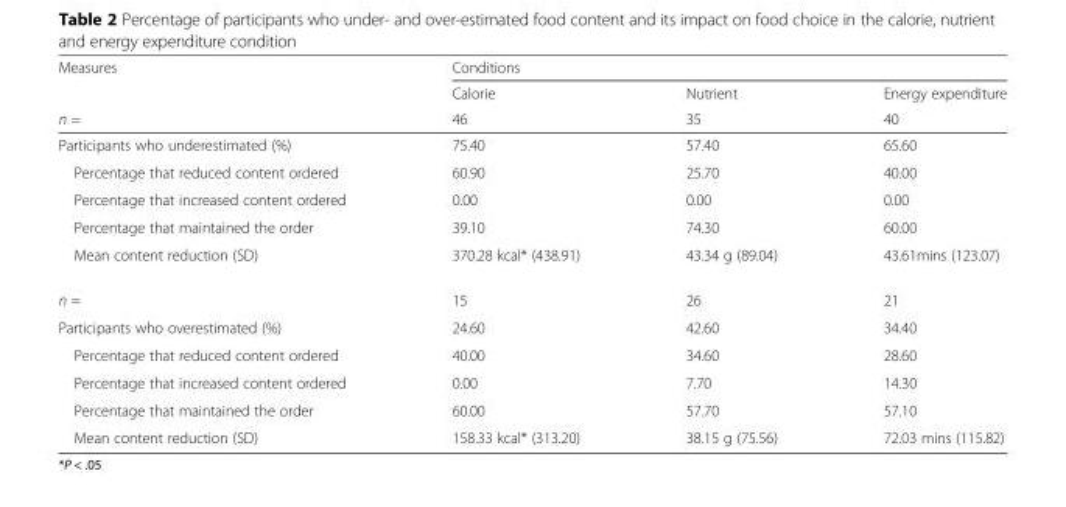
<table><thead><tr><td rowspan="3">Measures n =</td><td colspan="3">Conditions</td></tr><tr><td rowspan="2">Calorie 46</td><td rowspan="2">Nutrient 35</td><td rowspan="2">Energy expenditure 40</td></tr><tr></tr></thead><tbody><tr><td>Participants who underestimated (%)</td><td>75.40</td><td>57.40</td><td>65.60</td></tr><tr><td>Percentage that reduced content ordered</td><td>60.90</td><td>25.70</td><td>40.00</td></tr><tr><td>Percentage that increased content ordered</td><td>0.00</td><td>0.00</td><td>0.00</td></tr><tr><td>Percentage that maintained the order</td><td>39.10</td><td>74.30</td><td>60.00</td></tr><tr><td>Mean content reduction (SD)</td><td>370.28 kcal* (438.91)</td><td>43.34 g (89.04)</td><td>43.61mins (123.07)</td></tr><tr><td>n =</td><td>15</td><td>26</td><td>21</td></tr><tr><td>Participants who overestimated (%)</td><td>24.60</td><td>42.60</td><td>34.40</td></tr><tr><td>Percentage that reduced content ordered</td><td>40.00</td><td>34.60</td><td>28.60</td></tr><tr><td>Percentage that increased content ordered</td><td>0.00</td><td>7.70</td><td>14.30</td></tr><tr><td>Percentage that maintained the order</td><td>60.00</td><td>57.70</td><td>57.10</td></tr><tr><td>Mean content reduction (SD)</td><td>158.33 kcal* (313.20)</td><td>38.15 g (75.56)</td><td>72.03 mins (115.82)</td></tr></tbody></table>